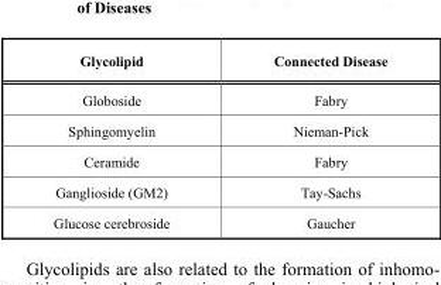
<table><thead><tr><td>Glycolipid</td><td>Connected Disease</td></tr></thead><tbody><tr><td>Globoside</td><td>Fabry</td></tr><tr><td>Sphingomyelin</td><td>Nieman-Pick</td></tr><tr><td>Ceramide</td><td>Fabry</td></tr><tr><td>Ganglioside (GM2)</td><td>Tay-Sachs</td></tr><tr><td>Glucose cerebroside</td><td>Gaucher</td></tr></tbody></table>